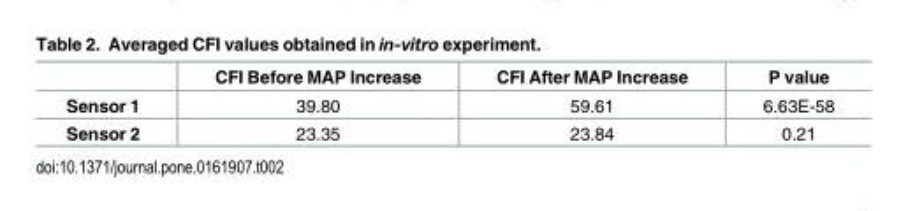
<table><thead><tr><td></td><td>CFI Before MAP Increase</td><td>CFI After MAP Increase</td><td>P value</td></tr></thead><tbody><tr><td>Sensor 1</td><td>39.80</td><td>59.61</td><td>6.63E-58</td></tr><tr><td>Sensor 2</td><td>23.35</td><td>23.84</td><td>0.21</td></tr></tbody></table>